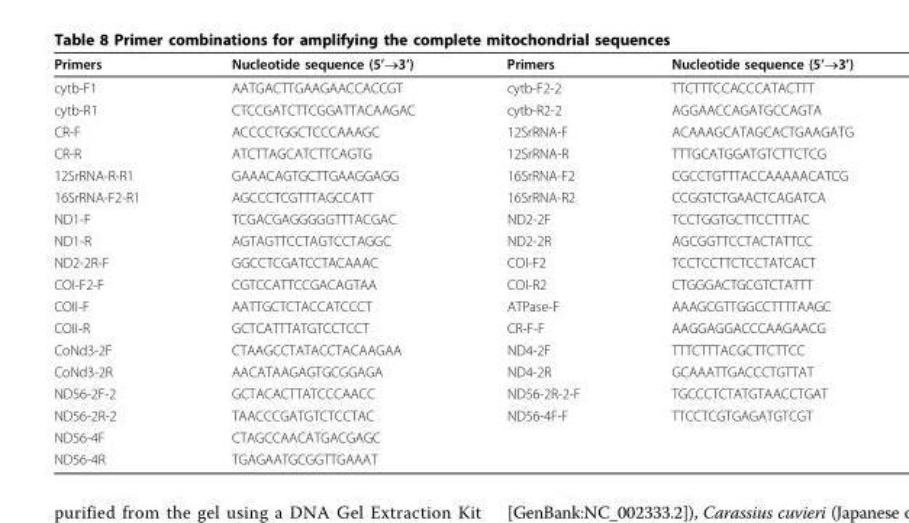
<table><thead><tr><td>Primers</td><td>Nucleotide sequence (5’→3’)</td><td>Primers</td><td>Nucleotide sequence (5’→3’)</td></tr></thead><tbody><tr><td>cytb-F1</td><td>AATGACTTGAAGAACCACCGT</td><td>cytb-F2-2</td><td>TTCTTTCCACCCATACTTT</td></tr><tr><td>cytb-R1</td><td>CTCCGATCTTCGGATTACAAGAC</td><td>cytb-R2-2</td><td>AGGAACCAGATGCCAGTA</td></tr><tr><td>CR-F</td><td>ACCCCTGGCTCCCAAAGC</td><td>12SrRNA-F</td><td>ACAAAGCATAGCACTGAAGATG</td></tr><tr><td>CR-R</td><td>ATCTTAGCATCTTCAGTG</td><td>12SrRNA-R</td><td>TTTGCATGGATGTCTTCTCG</td></tr><tr><td>12SrRNA-R-R1</td><td>GAAACAGTGCTTGAAGGAGG</td><td>16SrRNA-F2</td><td>CGCCTGTTTACCAAAAACATCG</td></tr><tr><td>16SrRNA-F2-R1</td><td>AGCCCTCGTTTAGCCATT</td><td>16SrRNA-R2</td><td>CCGGTCTGAACTCAGATCA</td></tr><tr><td>ND1-F</td><td>TCGACGAGGGGGTTTACGAC</td><td>ND2-2F</td><td>TCCTGGTGCTTCCTTTAC</td></tr><tr><td>ND1-R</td><td>AGTAGTTCCTAGTCCTAGGC</td><td>ND2-2R</td><td>AGCGGTTCCTACTATTCC</td></tr><tr><td>ND2-2R-F</td><td>GGCCTCGATCCTACAAAC</td><td>COI-F2</td><td>TCCTCCTTCTCCTATCACT</td></tr><tr><td>COI-F2-F</td><td>CGTCCATTCCGACAGTAA</td><td>COI-R2</td><td>CTGGGACTGCGTCTATTT</td></tr><tr><td>COII-F</td><td>AATTGCTCTACCATCCCT</td><td>ATPase-F</td><td>AAAGCGTTGGCCTTTTAAGC</td></tr><tr><td>COII-R</td><td>GCTCATTTATGTCCTCCT</td><td>CR-F-F</td><td>AAGGAGGACCCAAGAACG</td></tr><tr><td>CoNd3-2F</td><td>CTAAGCCTATACCTACAAGAA</td><td>ND4-2F</td><td>TTTCTTTACGCTTCTTCC</td></tr><tr><td>CoNd3-2R</td><td>AACATAAGAGTGCGGAGA</td><td>ND4-2R</td><td>GCAAATTGACCCTGTTAT</td></tr><tr><td>ND56-2F-2</td><td>GCTACACTTATCCCAACC</td><td>ND56-2R-2-F</td><td>TGCCCTCTATGTAACCTGAT</td></tr><tr><td>ND56-2R-2</td><td>TAACCCGATGTCTCCTAC</td><td>ND56-4F-F</td><td>TTCCTCGTGAGATGTCGT</td></tr><tr><td>ND56-4F</td><td>CTAGCCAACATGACGAGC</td><td></td><td></td></tr><tr><td>ND56-4R</td><td>TGAGAATGCGGTTGAAAT</td><td></td><td></td></tr></tbody></table>